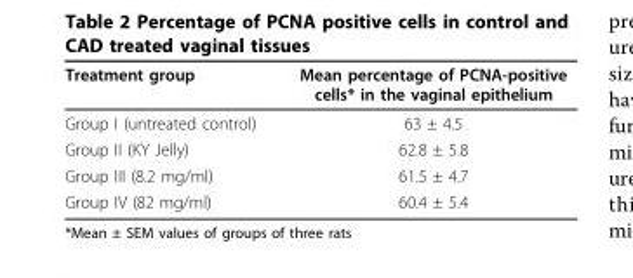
<table><thead><tr><td>Treatment group</td><td>Mean percentage of PCNA-positive cells* in the vaginal epithelium</td></tr></thead><tbody><tr><td>Group I (untreated control)</td><td>63 ± 4.5</td></tr><tr><td>Group II (KY Jelly)</td><td>62.8 ± 5.8</td></tr><tr><td>Group III (8.2 mg/ml)</td><td>61.5 ± 4.7</td></tr><tr><td>Group IV (82 mg/ml)</td><td>60.4 ± 5.4</td></tr></tbody></table>